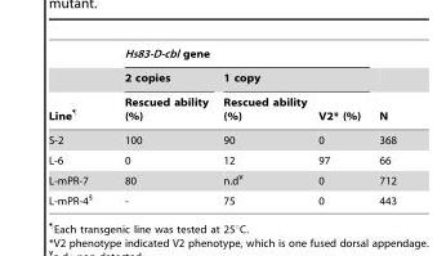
<table><thead><tr><td rowspan="3">Line¶</td><td colspan="3">Hs83-D-cbl gene</td><td rowspan="3">N</td></tr><tr><td rowspan="2">2 copies Rescued ability (%)</td><td colspan="2">1 copy</td></tr><tr><td>Rescued ability (%)</td><td>V2* (%)</td></tr></thead><tbody><tr><td>S-2</td><td>100</td><td>90</td><td>0</td><td>368</td></tr><tr><td>L-6</td><td>0</td><td>12</td><td>97</td><td>66</td></tr><tr><td>L-mPR-7</td><td>80</td><td>n.d¥</td><td>0</td><td>712</td></tr><tr><td>L-mPR-4§</td><td>-</td><td>75</td><td>0</td><td>443</td></tr></tbody></table>